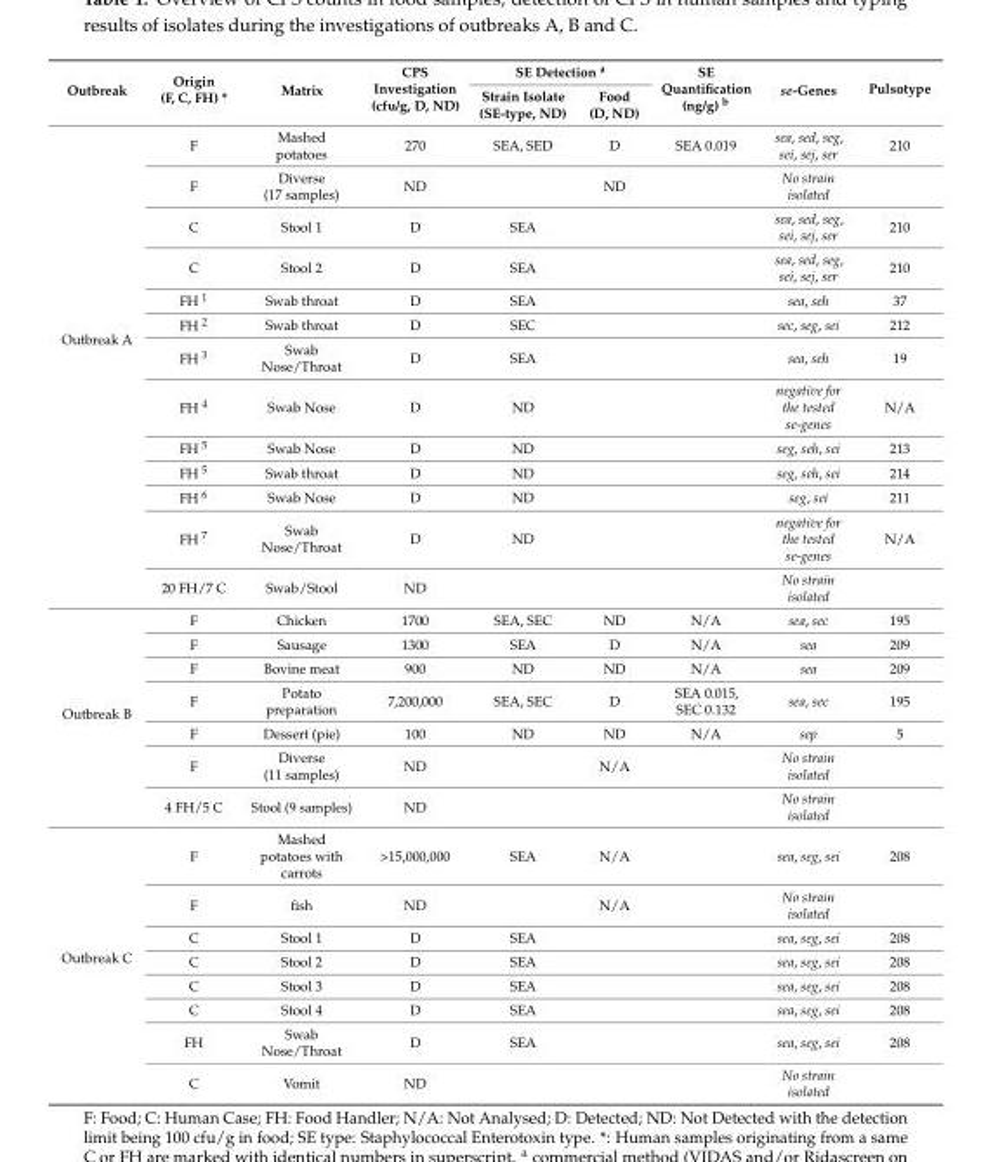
<table><thead><tr><td rowspan="2">Outbreak</td><td rowspan="2">Origin (F, C, FH) *</td><td rowspan="2">Matrix</td><td rowspan="2">CPS Investigation (cfu/g, D, ND)</td><td colspan="2">SE Detection <sup>a</sup></td><td rowspan="2">SE Quantification (ng/g) <sup>b</sup></td><td rowspan="2">se-Genes</td><td rowspan="2">Pulsotype</td></tr><tr><td>Strain Isolate (SE-type, ND)</td><td>Food (D, ND)</td></tr></thead><tbody><tr><td rowspan="13">Outbreak A</td><td>F</td><td>Mashed potatoes</td><td>270</td><td>SEA, SED</td><td>D</td><td>SEA 0.019</td><td>sea, sed, seg, sei, sej, ser</td><td>210</td></tr><tr><td>F</td><td>Diverse (17 samples)</td><td>ND</td><td></td><td>ND</td><td></td><td>No strain isolated</td><td></td></tr><tr><td>C</td><td>Stool 1</td><td>D</td><td>SEA</td><td></td><td></td><td>sea, sed, seg, sei, sej, ser</td><td>210</td></tr><tr><td>C</td><td>Stool 2</td><td>D</td><td>SEA</td><td></td><td></td><td>sea, sed, seg, sei, sej, ser</td><td>210</td></tr><tr><td>FH <sup>1</sup></td><td>Swab throat</td><td>D</td><td>SEA</td><td></td><td></td><td>sea, seh</td><td>37</td></tr><tr><td>FH <sup>2</sup></td><td>Swab throat</td><td>D</td><td>SEC</td><td></td><td></td><td>sec, seg, sei</td><td>212</td></tr><tr><td>FH <sup>3</sup></td><td>Swab Nose/Throat</td><td>D</td><td>SEA</td><td></td><td></td><td>sea, seh</td><td>19</td></tr><tr><td>FH <sup>4</sup></td><td>Swab Nose</td><td>D</td><td>ND</td><td></td><td></td><td>negative for the tested se-genes</td><td>N/A</td></tr><tr><td>FH <sup>5</sup></td><td>Swab Nose</td><td>D</td><td>ND</td><td></td><td></td><td>seg, seh, sei</td><td>213</td></tr><tr><td>FH <sup>5</sup></td><td>Swab throat</td><td>D</td><td>ND</td><td></td><td></td><td>seg, seh, sei</td><td>214</td></tr><tr><td>FH <sup>6</sup></td><td>Swab Nose</td><td>D</td><td>ND</td><td></td><td></td><td>seg, sei</td><td>211</td></tr><tr><td>FH <sup>7</sup></td><td>Swab Nose/Throat</td><td>D</td><td>ND</td><td></td><td></td><td>negative for the tested se-genes</td><td>N/A</td></tr><tr><td>20 FH/7 C</td><td>Swab/Stool</td><td>ND</td><td></td><td></td><td></td><td>No strain isolated</td><td></td></tr><tr><td rowspan="7">Outbreak B</td><td>F</td><td>Chicken</td><td>1700</td><td>SEA, SEC</td><td>ND</td><td>N/A</td><td>sea, sec</td><td>195</td></tr><tr><td>F</td><td>Sausage</td><td>1300</td><td>SEA</td><td>D</td><td>N/A</td><td>sea</td><td>209</td></tr><tr><td>F</td><td>Bovine meat</td><td>900</td><td>ND</td><td>ND</td><td>N/A</td><td>sea</td><td>209</td></tr><tr><td>F</td><td>Potato preparation</td><td>7,200,000</td><td>SEA, SEC</td><td>D</td><td>SEA 0.015, SEC 0.132</td><td>sea, sec</td><td>195</td></tr><tr><td>F</td><td>Dessert (pie)</td><td>100</td><td>ND</td><td>ND</td><td>N/A</td><td>sep</td><td>5</td></tr><tr><td>F</td><td>Diverse (11 samples)</td><td>ND</td><td></td><td>N/A</td><td></td><td>No strain isolated</td><td></td></tr><tr><td>4 FH/5 C</td><td>Stool (9 samples)</td><td>ND</td><td></td><td></td><td></td><td>No strain isolated</td><td></td></tr><tr><td rowspan="8">Outbreak C</td><td>F</td><td>Mashed potatoes with carrots</td><td>&gt;15,000,000</td><td>SEA</td><td>N/A</td><td></td><td>sea, seg, sei</td><td>208</td></tr><tr><td>F</td><td>fish</td><td>ND</td><td></td><td>N/A</td><td></td><td>No strain isolated</td><td></td></tr><tr><td>C</td><td>Stool 1</td><td>D</td><td>SEA</td><td></td><td></td><td>sea, seg, sei</td><td>208</td></tr><tr><td>C</td><td>Stool 2</td><td>D</td><td>SEA</td><td></td><td></td><td>sea, seg, sei</td><td>208</td></tr><tr><td>C</td><td>Stool 3</td><td>D</td><td>SEA</td><td></td><td></td><td>sea, seg, sei</td><td>208</td></tr><tr><td>C</td><td>Stool 4</td><td>D</td><td>SEA</td><td></td><td></td><td>sea, seg, sei</td><td>208</td></tr><tr><td>FH</td><td>Swab Nose/Throat</td><td>D</td><td>SEA</td><td></td><td></td><td>sea, seg, sei</td><td>208</td></tr><tr><td>C</td><td>Vomit</td><td>ND</td><td></td><td></td><td></td><td>No strain isolated</td><td></td></tr></tbody></table>